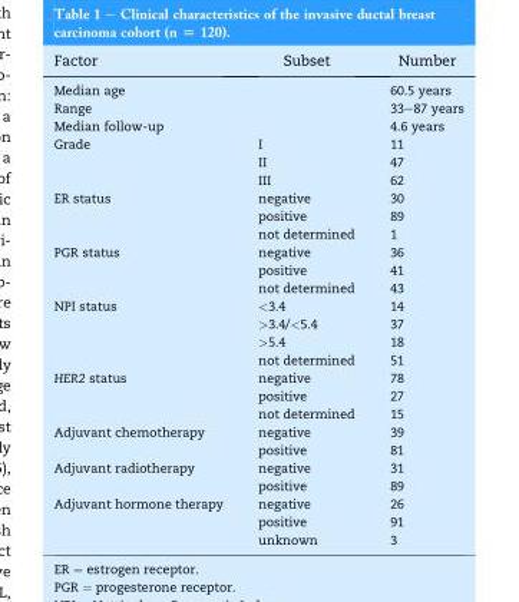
<table><thead><tr><td>Factor</td><td>Subset</td><td>Number</td></tr></thead><tbody><tr><td colspan="2">Median age</td><td>60.5 years</td></tr><tr><td colspan="2">Range</td><td>33–87 years</td></tr><tr><td colspan="2">Median follow-up</td><td>4.6 years</td></tr><tr><td rowspan="3">Grade</td><td>I</td><td>11</td></tr><tr><td>II</td><td>47</td></tr><tr><td>III</td><td>62</td></tr><tr><td rowspan="3">ER status</td><td>negative</td><td>30</td></tr><tr><td>positive</td><td>89</td></tr><tr><td>not determined</td><td>1</td></tr><tr><td rowspan="3">PGR status</td><td>negative</td><td>36</td></tr><tr><td>positive</td><td>41</td></tr><tr><td>not determined</td><td>43</td></tr><tr><td rowspan="4">NPI status</td><td>&lt;3.4</td><td>14</td></tr><tr><td>&gt;3.4/&lt;5.4</td><td>37</td></tr><tr><td>&gt;5.4</td><td>18</td></tr><tr><td>not determined</td><td>51</td></tr><tr><td rowspan="3">HER2 status</td><td>negative</td><td>78</td></tr><tr><td>positive</td><td>27</td></tr><tr><td>not determined</td><td>15</td></tr><tr><td rowspan="2">Adjuvant chemotherapy</td><td>negative</td><td>39</td></tr><tr><td>positive</td><td>81</td></tr><tr><td rowspan="2">Adjuvant radiotherapy</td><td>negative</td><td>31</td></tr><tr><td>positive</td><td>89</td></tr><tr><td rowspan="3">Adjuvant hormone therapy</td><td>negative</td><td>26</td></tr><tr><td>positive</td><td>91</td></tr><tr><td>unknown</td><td>3</td></tr></tbody></table>